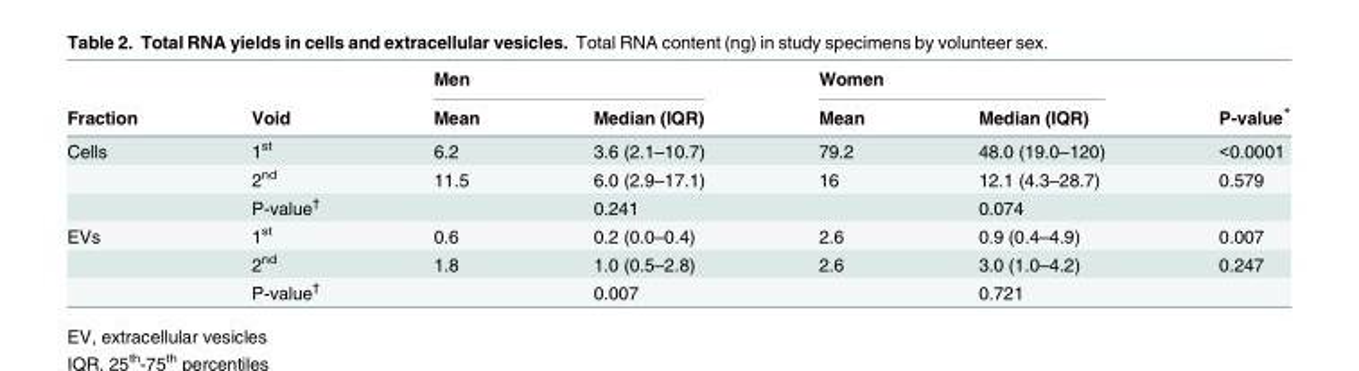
<table><thead><tr><td rowspan="2">Fraction</td><td rowspan="2">Void</td><td colspan="2">Men</td><td colspan="2">Women</td><td rowspan="2">P-value*</td></tr><tr><td>Mean</td><td>Median (IQR)</td><td>Mean</td><td>Median (IQR)</td></tr></thead><tbody><tr><td rowspan="3">Cells</td><td>1<sup>st</sup></td><td>6.2</td><td>3.6 (2.1–10.7)</td><td>79.2</td><td>48.0 (19.0–120)</td><td>&lt;0.0001</td></tr><tr><td>2<sup>nd</sup></td><td>11.5</td><td>6.0 (2.9–17.1)</td><td>16</td><td>12.1 (4.3–28.7)</td><td>0.579</td></tr><tr><td>P-value<sup>†</sup></td><td></td><td>0.241</td><td></td><td>0.074</td><td></td></tr><tr><td rowspan="3">EVs</td><td>1<sup>st</sup></td><td>0.6</td><td>0.2 (0.0–0.4)</td><td>2.6</td><td>0.9 (0.4–4.9)</td><td>0.007</td></tr><tr><td>2<sup>nd</sup></td><td>1.8</td><td>1.0 (0.5–2.8)</td><td>2.6</td><td>3.0 (1.0–4.2)</td><td>0.247</td></tr><tr><td>P-value<sup>†</sup></td><td></td><td>0.007</td><td></td><td>0.721</td><td></td></tr></tbody></table>